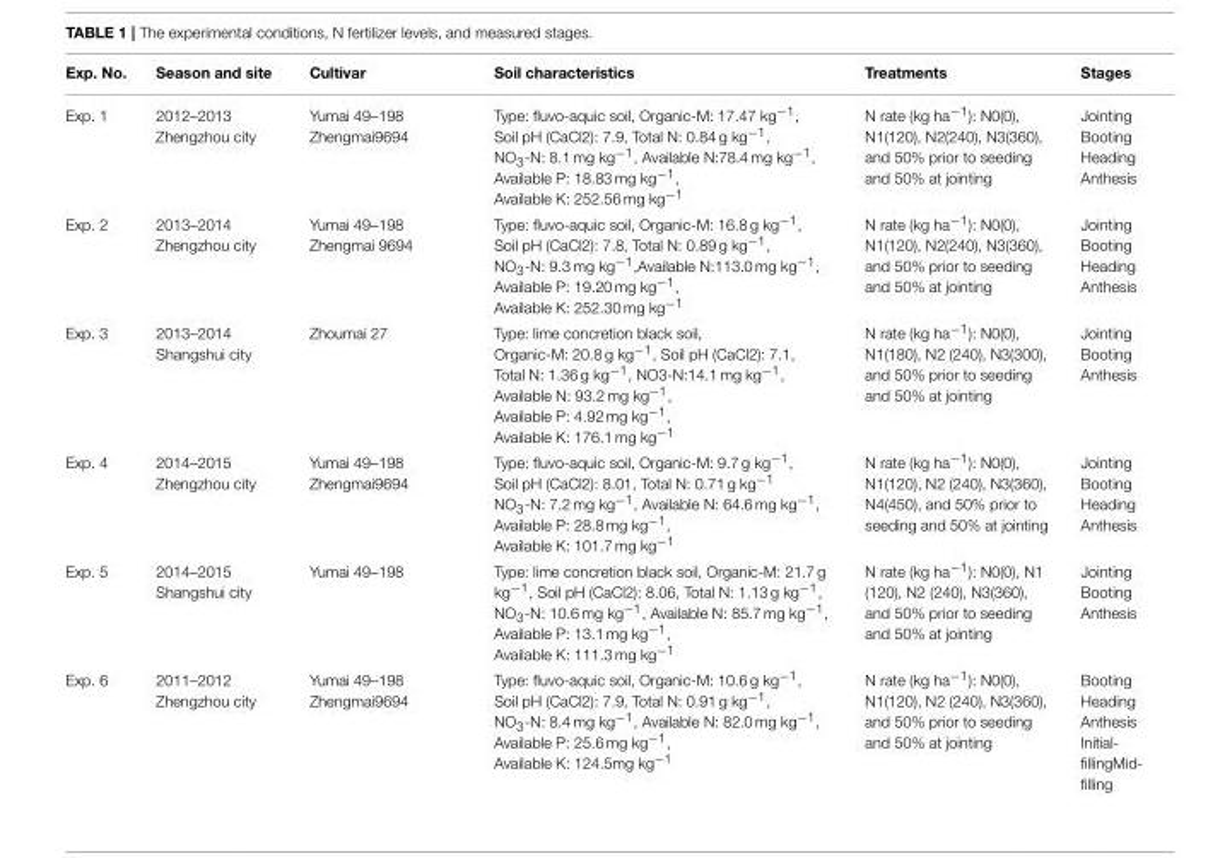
<table><thead><tr><td>Exp. No.</td><td>Season and site</td><td>Cultivar</td><td>Soil characteristics</td><td>Treatments</td><td>Stages</td></tr></thead><tbody><tr><td>Exp. 1</td><td>2012–2013 Zhengzhou city</td><td>Yumai 49–198 Zhengmai9694</td><td>Type: fluvo-aquic soil, Organic-M: 17.47 kg<sup>−1</sup>, Soil pH (CaCl2): 7.9, Total N: 0.84 g kg<sup>−1</sup>, NO<sub>3</sub>-N: 8.1 mg kg<sup>−1</sup>, Available N:78.4 mg kg<sup>−1</sup>, Available P: 18.83 mg kg<sup>−1</sup>, Available K: 252.56 mg kg<sup>−1</sup></td><td>N rate (kg ha<sup>−1</sup>): N0(0), N1(120), N2(240), N3(360), and 50% prior to seeding and 50% at jointing</td><td>Jointing Booting Heading Anthesis</td></tr><tr><td>Exp. 2</td><td>2013–2014 Zhengzhou city</td><td>Yumai 49–198 Zhengmai 9694</td><td>Type: fluvo-aquic soil, Organic-M: 16.8 g kg<sup>−1</sup>, Soil pH (CaCl2): 7.8, Total N: 0.89 g kg<sup>−1</sup>, NO<sub>3</sub>-N: 9.3 mg kg<sup>−1</sup>,Available N:113.0 mg kg<sup>−1</sup>, Available P: 19.20 mg kg<sup>−1</sup>, Available K: 252.30 mg kg<sup>−1</sup></td><td>N rate (kg ha<sup>−1</sup>): N0(0), N1(120), N2(240), N3(360), and 50% prior to seeding and 50% at jointing</td><td>Jointing Booting Heading Anthesis</td></tr><tr><td>Exp. 3</td><td>2013–2014 Shangshui city</td><td>Zhoumai 27</td><td>Type: lime concretion black soil, Organic-M: 20.8 g kg<sup>−1</sup>, Soil pH (CaCl2): 7.1, Total N: 1.36 g kg<sup>−1</sup>, NO3-N:14.1 mg kg<sup>−1</sup>, Available N: 93.2 mg kg<sup>−1</sup>, Available P: 4.92 mg kg<sup>−1</sup>, Available K: 176.1 mg kg<sup>−1</sup></td><td>N rate (kg ha<sup>−1</sup>): N0(0), N1(180), N2 (240), N3(300), and 50% prior to seeding and 50% at jointing</td><td>Jointing Booting Anthesis</td></tr><tr><td>Exp. 4</td><td>2014–2015 Zhengzhou city</td><td>Yumai 49–198 Zhengmai9694</td><td>Type: fluvo-aquic soil, Organic-M: 9.7 g kg<sup>−1</sup>, Soil pH (CaCl2): 8.01, Total N: 0.71 g kg<sup>−1</sup> NO<sub>3</sub>-N: 7.2 mg kg<sup>−1</sup>, Available N: 64.6 mg kg<sup>−1</sup>, Available P: 28.8 mg kg<sup>−1</sup>, Available K: 101.7 mg kg<sup>−1</sup></td><td>N rate (kg ha<sup>−1</sup>): N0(0), N1(120), N2 (240), N3(360), N4(450), and 50% prior to seeding and 50% at jointing</td><td>Jointing Booting Heading Anthesis</td></tr><tr><td>Exp. 5</td><td>2014–2015 Shangshui city</td><td>Yumai 49–198</td><td>Type: lime concretion black soil, Organic-M: 21.7 g kg<sup>−1</sup>, Soil pH (CaCl2): 8.06, Total N: 1.13 g kg<sup>−1</sup>, NO<sub>3</sub>-N: 10.6 mg kg<sup>−1</sup>, Available N: 85.7 mg kg<sup>−1</sup>, Available P: 13.1 mg kg<sup>−1</sup>, Available K: 111.3 mg kg<sup>−1</sup></td><td>N rate (kg ha<sup>−1</sup>): N0(0), N1 (120), N2 (240), N3(360), and 50% prior to seeding and 50% at jointing</td><td>Jointing Booting Anthesis</td></tr><tr><td>Exp. 6</td><td>2011–2012 Zhengzhou city</td><td>Yumai 49–198 Zhengmai9694</td><td>Type: fluvo-aquic soil, Organic-M: 10.6 g kg<sup>−1</sup>, Soil pH (CaCl2): 7.9, Total N: 0.91 g kg<sup>−1</sup>, NO<sub>3</sub>-N: 8.4 mg kg<sup>−1</sup>, Available N: 82.0 mg kg<sup>−1</sup>, Available P: 25.6 mg kg<sup>−1</sup>, Available K: 124.5mg kg<sup>−1</sup></td><td>N rate (kg ha<sup>−1</sup>): N0(0), N1(120), N2 (240), N3(360), and 50% prior to seeding and 50% at jointing</td><td>Booting Heading Anthesis Initial- fillingMid- filling</td></tr></tbody></table>